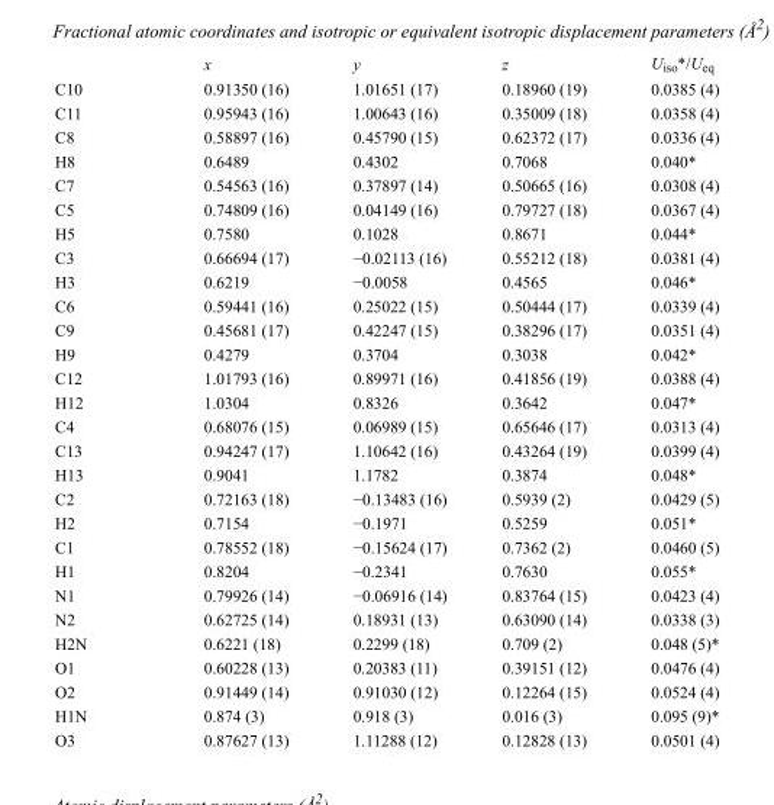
<table><thead><tr><td></td><td>x</td><td>y</td><td>z</td><td>U<sub>iso</sub>*/U<sub>eq</sub></td></tr></thead><tbody><tr><td>C10</td><td>0.91350 (16)</td><td>1.01651 (17)</td><td>0.18960 (19)</td><td>0.0385 (4)</td></tr><tr><td>C11</td><td>0.95943 (16)</td><td>1.00643 (16)</td><td>0.35009 (18)</td><td>0.0358 (4)</td></tr><tr><td>C8</td><td>0.58897 (16)</td><td>0.45790 (15)</td><td>0.62372 (17)</td><td>0.0336 (4)</td></tr><tr><td>H8</td><td>0.6489</td><td>0.4302</td><td>0.7068</td><td>0.040*</td></tr><tr><td>C7</td><td>0.54563 (16)</td><td>0.37897 (14)</td><td>0.50665 (16)</td><td>0.0308 (4)</td></tr><tr><td>C5</td><td>0.74809 (16)</td><td>0.04149 (16)</td><td>0.79727 (18)</td><td>0.0367 (4)</td></tr><tr><td>H5</td><td>0.7580</td><td>0.1028</td><td>0.8671</td><td>0.044*</td></tr><tr><td>C3</td><td>0.66694 (17)</td><td>−0.02113 (16)</td><td>0.55212 (18)</td><td>0.0381 (4)</td></tr><tr><td>H3</td><td>0.6219</td><td>−0.0058</td><td>0.4565</td><td>0.046*</td></tr><tr><td>C6</td><td>0.59441 (16)</td><td>0.25022 (15)</td><td>0.50444 (17)</td><td>0.0339 (4)</td></tr><tr><td>C9</td><td>0.45681 (17)</td><td>0.42247 (15)</td><td>0.38296 (17)</td><td>0.0351 (4)</td></tr><tr><td>H9</td><td>0.4279</td><td>0.3704</td><td>0.3038</td><td>0.042*</td></tr><tr><td>C12</td><td>1.01793 (16)</td><td>0.89971 (16)</td><td>0.41856 (19)</td><td>0.0388 (4)</td></tr><tr><td>H12</td><td>1.0304</td><td>0.8326</td><td>0.3642</td><td>0.047*</td></tr><tr><td>C4</td><td>0.68076 (15)</td><td>0.06989 (15)</td><td>0.65646 (17)</td><td>0.0313 (4)</td></tr><tr><td>C13</td><td>0.94247 (17)</td><td>1.10642 (16)</td><td>0.43264 (19)</td><td>0.0399 (4)</td></tr><tr><td>H13</td><td>0.9041</td><td>1.1782</td><td>0.3874</td><td>0.048*</td></tr><tr><td>C2</td><td>0.72163 (18)</td><td>−0.13483 (16)</td><td>0.5939 (2)</td><td>0.0429 (5)</td></tr><tr><td>H2</td><td>0.7154</td><td>−0.1971</td><td>0.5259</td><td>0.051*</td></tr><tr><td>C1</td><td>0.78552 (18)</td><td>−0.15624 (17)</td><td>0.7362 (2)</td><td>0.0460 (5)</td></tr><tr><td>H1</td><td>0.8204</td><td>−0.2341</td><td>0.7630</td><td>0.055*</td></tr><tr><td>N1</td><td>0.79926 (14)</td><td>−0.06916 (14)</td><td>0.83764 (15)</td><td>0.0423 (4)</td></tr><tr><td>N2</td><td>0.62725 (14)</td><td>0.18931 (13)</td><td>0.63090 (14)</td><td>0.0338 (3)</td></tr><tr><td>H2N</td><td>0.6221 (18)</td><td>0.2299 (18)</td><td>0.709 (2)</td><td>0.048 (5)*</td></tr><tr><td>O1</td><td>0.60228 (13)</td><td>0.20383 (11)</td><td>0.39151 (12)</td><td>0.0476 (4)</td></tr><tr><td>O2</td><td>0.91449 (14)</td><td>0.91030 (12)</td><td>0.12264 (15)</td><td>0.0524 (4)</td></tr><tr><td>H1N</td><td>0.874 (3)</td><td>0.918 (3)</td><td>0.016 (3)</td><td>0.095 (9)*</td></tr><tr><td>O3</td><td>0.87627 (13)</td><td>1.11288 (12)</td><td>0.12828 (13)</td><td>0.0501 (4)</td></tr></tbody></table>